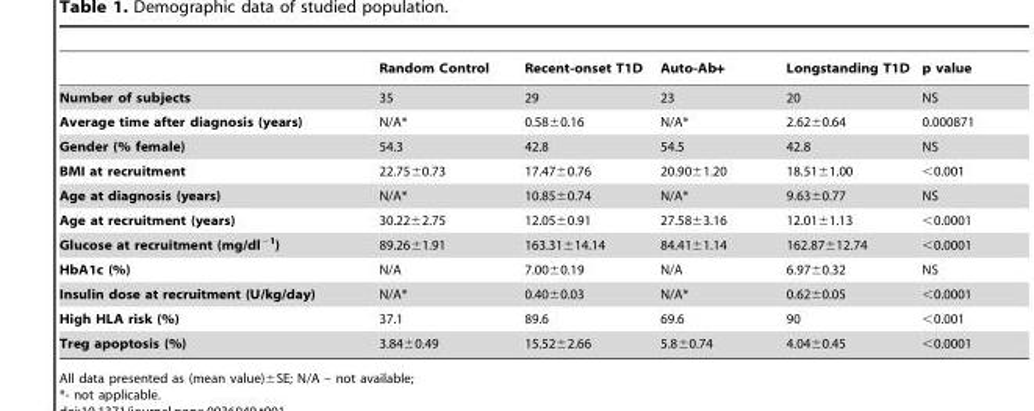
<table><thead><tr><td></td><td>Random Control</td><td>Recent-onset T1D</td><td>Auto-Ab+</td><td>Longstanding T1D</td><td>p value</td></tr></thead><tbody><tr><td>Number of subjects</td><td>35</td><td>29</td><td>23</td><td>20</td><td>NS</td></tr><tr><td>Average time after diagnosis (years)</td><td>N/A*</td><td>0.58±0.16</td><td>N/A*</td><td>2.62±0.64</td><td>0.000871</td></tr><tr><td>Gender (% female)</td><td>54.3</td><td>42.8</td><td>54.5</td><td>42.8</td><td>NS</td></tr><tr><td>BMI at recruitment</td><td>22.75±0.73</td><td>17.47±0.76</td><td>20.90±1.20</td><td>18.51±1.00</td><td>&lt;0.001</td></tr><tr><td>Age at diagnosis (years)</td><td>N/A*</td><td>10.85±0.74</td><td>N/A*</td><td>9.63±0.77</td><td>NS</td></tr><tr><td>Age at recruitment (years)</td><td>30.22±2.75</td><td>12.05±0.91</td><td>27.58±3.16</td><td>12.01±1.13</td><td>&lt;0.0001</td></tr><tr><td>Glucose at recruitment (mg/dl<sup>−1</sup>)</td><td>89.26±1.91</td><td>163.31±14.14</td><td>84.41±1.14</td><td>162.87±12.74</td><td>&lt;0.0001</td></tr><tr><td>HbA1c (%)</td><td>N/A</td><td>7.00±0.19</td><td>N/A</td><td>6.97±0.32</td><td>NS</td></tr><tr><td>Insulin dose at recruitment (U/kg/day)</td><td>N/A*</td><td>0.40±0.03</td><td>N/A*</td><td>0.62±0.05</td><td>&lt;0.0001</td></tr><tr><td>High HLA risk (%)</td><td>37.1</td><td>89.6</td><td>69.6</td><td>90</td><td>&lt;0.001</td></tr><tr><td>Treg apoptosis (%)</td><td>3.84±0.49</td><td>15.52±2.66</td><td>5.8±0.74</td><td>4.04±0.45</td><td>&lt;0.0001</td></tr></tbody></table>